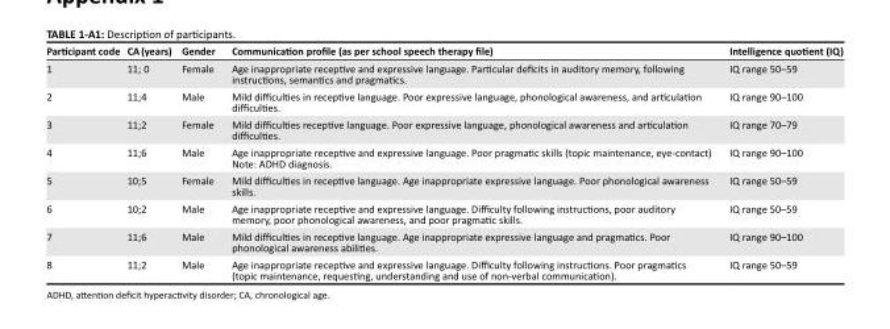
<table><thead><tr><td>Participant code</td><td>CA (years)</td><td>Gender</td><td>Communication profile (as per school speech therapy file)</td><td>Intelligence quotient (IQ)</td></tr></thead><tbody><tr><td>1</td><td>11; 0</td><td>Female</td><td>Age inappropriate receptive and expressive language. Particular deficits in auditory memory, following instructions, semantics and pragmatics.</td><td>IQ range 50–59</td></tr><tr><td>2</td><td>11;4</td><td>Male</td><td>Mild difficulties in receptive language. Poor expressive language, phonological awareness, and articulation difficulties.</td><td>IQ range 90–100</td></tr><tr><td>3</td><td>11;2</td><td>Female</td><td>Mild difficulties receptive language. Poor expressive language, phonological awareness and articulation difficulties.</td><td>IQ range 70–79</td></tr><tr><td>4</td><td>11;6</td><td>Male</td><td>Age inappropriate receptive and expressive language. Poor pragmatic skills (topic maintenance, eye-contact) Note: ADHD diagnosis.</td><td>IQ range 90–100</td></tr><tr><td>5</td><td>10;5</td><td>Female</td><td>Mild difficulties in receptive language. Age inappropriate expressive language. Poor phonological awareness skills.</td><td>IQ range 50–59</td></tr><tr><td>6</td><td>10;2</td><td>Male</td><td>Age inappropriate receptive and expressive language. Difficulty following instructions, poor auditory memory, poor phonological awareness, and poor pragmatic skills.</td><td>IQ range 50–59</td></tr><tr><td>7</td><td>11;6</td><td>Male</td><td>Mild difficulties in receptive language. Age inappropriate expressive language and pragmatics. Poor phonological awareness abilities.</td><td>IQ range 90–100</td></tr><tr><td>8</td><td>11;2</td><td>Male</td><td>Age inappropriate receptive and expressive language. Difficulty following instructions. Poor pragmatics (topic maintenance, requesting, understanding and use of non-verbal communication).</td><td>IQ range 50–59</td></tr></tbody></table>